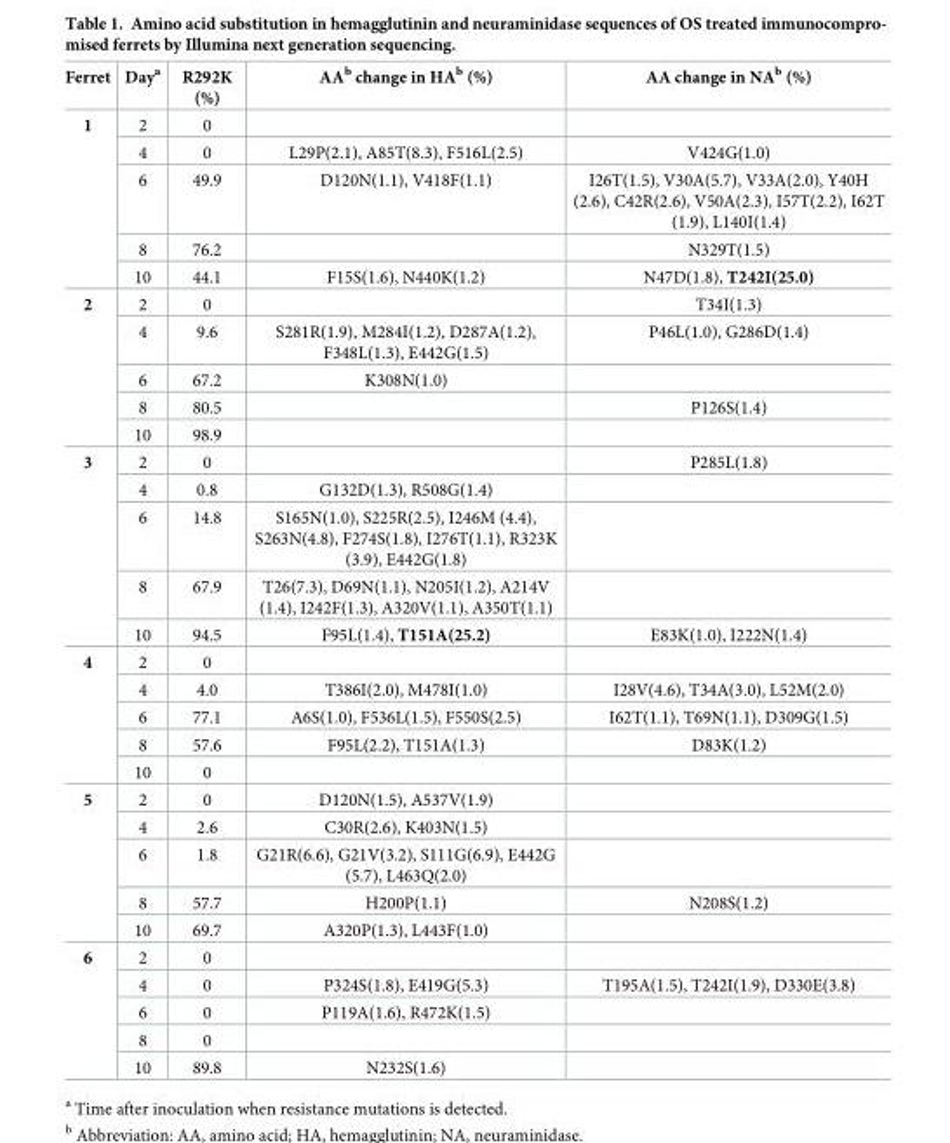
<table><thead><tr><td>Ferret</td><td>Day<sup>a</sup></td><td>R292K (%)</td><td>AA<sup>b</sup> change in HA<sup>b</sup> (%)</td><td>AA change in NA<sup>b</sup> (%)</td></tr></thead><tbody><tr><td rowspan="5">1</td><td>2</td><td>0</td><td></td><td></td></tr><tr><td>4</td><td>0</td><td>L29P(2.1), A85T(8.3), F516L(2.5)</td><td>V424G(1.0)</td></tr><tr><td>6</td><td>49.9</td><td>D120N(1.1), V418F(1.1)</td><td>I26T(1.5), V30A(5.7), V33A(2.0), Y40H (2.6), C42R(2.6), V50A(2.3), I57T(2.2), I62T (1.9), L140I(1.4)</td></tr><tr><td>8</td><td>76.2</td><td></td><td>N329T(1.5)</td></tr><tr><td>10</td><td>44.1</td><td>F15S(1.6), N440K(1.2)</td><td>N47D(1.8), T242I(25.0)</td></tr><tr><td rowspan="5">2</td><td>2</td><td>0</td><td></td><td>T34I(1.3)</td></tr><tr><td>4</td><td>9.6</td><td>S281R(1.9), M284I(1.2), D287A(1.2), F348L(1.3), E442G(1.5)</td><td>P46L(1.0), G286D(1.4)</td></tr><tr><td>6</td><td>67.2</td><td>K308N(1.0)</td><td></td></tr><tr><td>8</td><td>80.5</td><td></td><td>P126S(1.4)</td></tr><tr><td>10</td><td>98.9</td><td></td><td></td></tr><tr><td rowspan="5">3</td><td>2</td><td>0</td><td></td><td>P285L(1.8)</td></tr><tr><td>4</td><td>0.8</td><td>G132D(1.3), R508G(1.4)</td><td></td></tr><tr><td>6</td><td>14.8</td><td>S165N(1.0), S225R(2.5), I246M (4.4), S263N(4.8), F274S(1.8), I276T(1.1), R323K (3.9), E442G(1.8)</td><td></td></tr><tr><td>8</td><td>67.9</td><td>T26(7.3), D69N(1.1), N205I(1.2), A214V (1.4), I242F(1.3), A320V(1.1), A350T(1.1)</td><td></td></tr><tr><td>10</td><td>94.5</td><td>F95L(1.4), T151A(25.2)</td><td>E83K(1.0), I222N(1.4)</td></tr><tr><td rowspan="5">4</td><td>2</td><td>0</td><td></td><td></td></tr><tr><td>4</td><td>4.0</td><td>T386I(2.0), M478I(1.0)</td><td>I28V(4.6), T34A(3.0), L52M(2.0)</td></tr><tr><td>6</td><td>77.1</td><td>A6S(1.0), F536L(1.5), F550S(2.5)</td><td>I62T(1.1), T69N(1.1), D309G(1.5)</td></tr><tr><td>8</td><td>57.6</td><td>F95L(2.2), T151A(1.3)</td><td>D83K(1.2)</td></tr><tr><td>10</td><td>0</td><td></td><td></td></tr><tr><td rowspan="5">5</td><td>2</td><td>0</td><td>D120N(1.5), A537V(1.9)</td><td></td></tr><tr><td>4</td><td>2.6</td><td>C30R(2.6), K403N(1.5)</td><td></td></tr><tr><td>6</td><td>1.8</td><td>G21R(6.6), G21V(3.2), S111G(6.9), E442G (5.7), L463Q(2.0)</td><td></td></tr><tr><td>8</td><td>57.7</td><td>H200P(1.1)</td><td>N208S(1.2)</td></tr><tr><td>10</td><td>69.7</td><td>A320P(1.3), L443F(1.0)</td><td></td></tr><tr><td rowspan="5">6</td><td>2</td><td>0</td><td></td><td></td></tr><tr><td>4</td><td>0</td><td>P324S(1.8), E419G(5.3)</td><td>T195A(1.5), T242I(1.9), D330E(3.8)</td></tr><tr><td>6</td><td>0</td><td>P119A(1.6), R472K(1.5)</td><td></td></tr><tr><td>8</td><td>0</td><td></td><td></td></tr><tr><td>10</td><td>89.8</td><td>N232S(1.6)</td><td></td></tr></tbody></table>